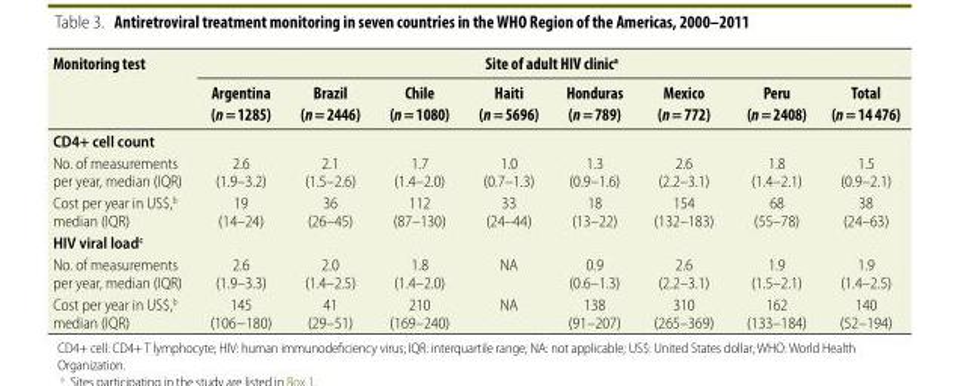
<table><thead><tr><td rowspan="2">Monitoring test</td><td colspan="8">Site of adult HIV clinic<sup>a</sup></td></tr><tr><td>Argentina (n = 1285)</td><td>Brazil (n = 2446)</td><td>Chile (n = 1080)</td><td>Haiti (n = 5696)</td><td>Honduras (n = 789)</td><td>Mexico (n = 772)</td><td>Peru (n = 2408)</td><td>Total (n = 14 476)</td></tr></thead><tbody><tr><td colspan="9">CD4+ cell count</td></tr><tr><td>No. of measurements per year, median (IQR)</td><td>2.6 (1.9–3.2)</td><td>2.1 (1.5–2.6)</td><td>1.7 (1.4–2.0)</td><td>1.0 (0.7–1.3)</td><td>1.3 (0.9–1.6)</td><td>2.6 (2.2–3.1)</td><td>1.8 (1.4–2.1)</td><td>1.5 (0.9–2.1)</td></tr><tr><td>Cost per year in US$,<sup>b</sup> median (IQR)</td><td>19 (14–24)</td><td>36 (26–45)</td><td>112 (87–130)</td><td>33 (24–44)</td><td>18 (13–22)</td><td>154 (132–183)</td><td>68 (55–78)</td><td>38 (24–63)</td></tr><tr><td colspan="9">HIV viral load<sup>c</sup></td></tr><tr><td>No. of measurements per year, median (IQR)</td><td>2.6 (1.9–3.3)</td><td>2.0 (1.4–2.5)</td><td>1.8 (1.4–2.0)</td><td>NA</td><td>0.9 (0.6–1.3)</td><td>2.6 (2.2–3.1)</td><td>1.9 (1.5–2.1)</td><td>1.9 (1.4–2.5)</td></tr><tr><td>Cost per year in US$,<sup>b</sup> median (IQR)</td><td>145 (106−180)</td><td>41 (29–51)</td><td>210 (169–240)</td><td>NA</td><td>138 (91–207)</td><td>310 (265–369)</td><td>162 (133–184)</td><td>140 (52–194)</td></tr></tbody></table>